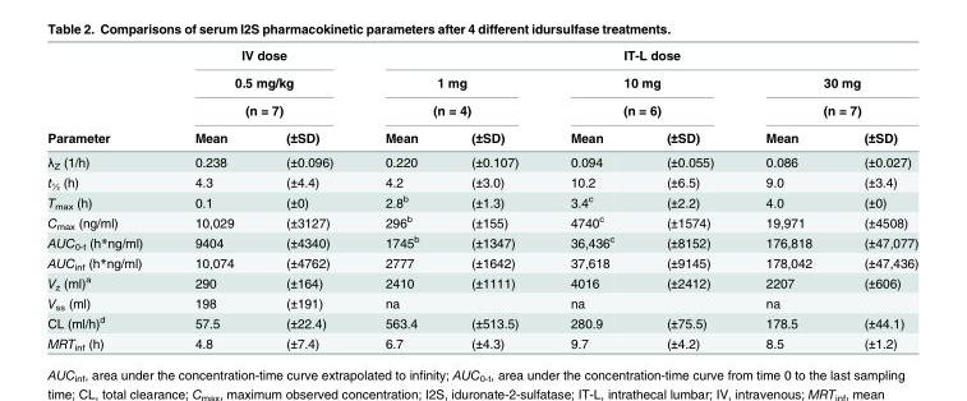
<table><thead><tr><td rowspan="4">Parameter</td><td rowspan="3" colspan="2">IV dose 0.5 mg/kg (n = 7)</td><td colspan="6">IT-L dose</td></tr><tr><td rowspan="2" colspan="2">1 mg (n = 4)</td><td rowspan="2" colspan="2">10 mg (n = 6)</td><td rowspan="2" colspan="2">30 mg (n = 7)</td></tr><tr></tr><tr><td>Mean</td><td>(±SD)</td><td>Mean</td><td>(±SD)</td><td>Mean</td><td>(±SD)</td><td>Mean</td><td>(±SD)</td></tr></thead><tbody><tr><td>λ<sub>Z</sub> (1/h)</td><td>0.238</td><td>(±0.096)</td><td>0.220</td><td>(±0.107)</td><td>0.094</td><td>(±0.055)</td><td>0.086</td><td>(±0.027)</td></tr><tr><td>t<sub>½</sub> (h)</td><td>4.3</td><td>(±4.4)</td><td>4.2</td><td>(±3.0)</td><td>10.2</td><td>(±6.5)</td><td>9.0</td><td>(±3.4)</td></tr><tr><td>T<sub>max</sub> (h)</td><td>0.1</td><td>(±0)</td><td>2.8<sup>b</sup></td><td>(±1.3)</td><td>3.4<sup>c</sup></td><td>(±2.2)</td><td>4.0</td><td>(±0)</td></tr><tr><td>C<sub>max</sub> (ng/ml)</td><td>10,029</td><td>(±3127)</td><td>296<sup>b</sup></td><td>(±155)</td><td>4740<sup>c</sup></td><td>(±1574)</td><td>19,971</td><td>(±4508)</td></tr><tr><td>AUC<sub>0-t</sub> (h*ng/ml)</td><td>9404</td><td>(±4340)</td><td>1745<sup>b</sup></td><td>(±1347)</td><td>36,436<sup>c</sup></td><td>(±8152)</td><td>176,818</td><td>(±47,077)</td></tr><tr><td>AUC<sub>inf</sub> (h*ng/ml)</td><td>10,074</td><td>(±4762)</td><td>2777</td><td>(±1642)</td><td>37,618</td><td>(±9145)</td><td>178,042</td><td>(±47,436)</td></tr><tr><td>V<sub>z</sub> (ml)<sup>a</sup></td><td>290</td><td>(±164)</td><td>2410</td><td>(±1111)</td><td>4016</td><td>(±2412)</td><td>2207</td><td>(±606)</td></tr><tr><td>V<sub>ss</sub> (ml)</td><td>198</td><td>(±191)</td><td>na</td><td></td><td>na</td><td></td><td>na</td><td></td></tr><tr><td>CL (ml/h)<sup>d</sup></td><td>57.5</td><td>(±22.4)</td><td>563.4</td><td>(±513.5)</td><td>280.9</td><td>(±75.5)</td><td>178.5</td><td>(±44.1)</td></tr><tr><td>MRT<sub>inf</sub> (h)</td><td>4.8</td><td>(±7.4)</td><td>6.7</td><td>(±4.3)</td><td>9.7</td><td>(±4.2)</td><td>8.5</td><td>(±1.2)</td></tr></tbody></table>